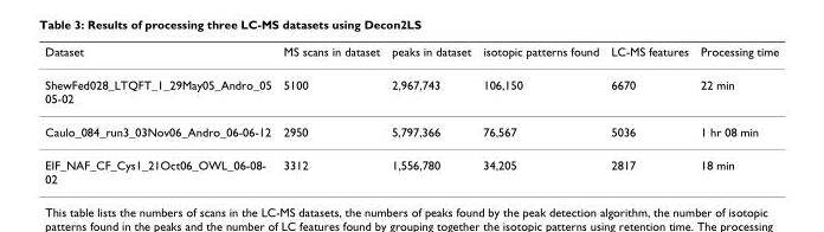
<table><thead><tr><td>Dataset</td><td>MS scans in dataset</td><td>peaks in dataset</td><td>isotopic patterns found</td><td>LC-MS features</td><td>Processing time</td></tr></thead><tbody><tr><td>ShewFed028_LTQFT_1_29May05_Andro_05 05-02</td><td>5100</td><td>2,967,743</td><td>106,150</td><td>6670</td><td>22 min</td></tr><tr><td>Caulo_084_run3_03Nov06_Andro_06-06-12</td><td>2950</td><td>5,797,366</td><td>76,567</td><td>5036</td><td>1 hr 08 min</td></tr><tr><td>EIF_NAF_CF_Cys1_21Oct06_OWL_06-08- 02</td><td>3312</td><td>1,556,780</td><td>34,205</td><td>2817</td><td>18 min</td></tr></tbody></table>